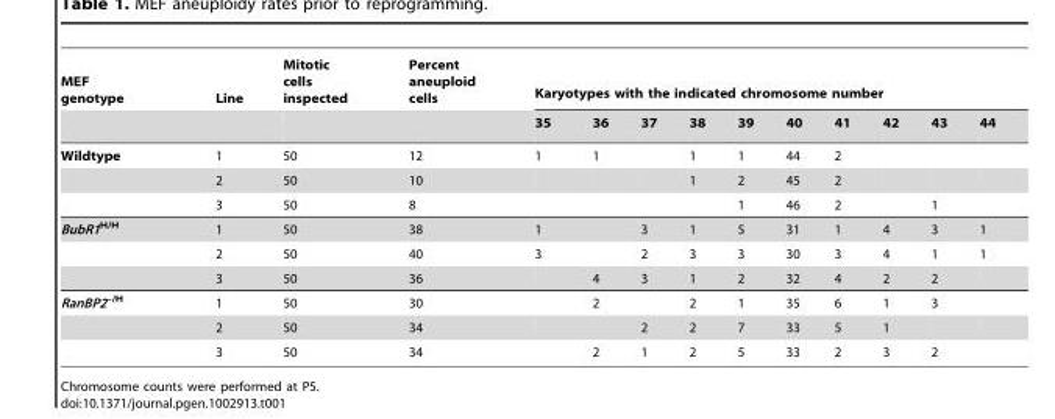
<table><thead><tr><td rowspan="2">MEF genotype</td><td rowspan="2">Line</td><td rowspan="2">Mitotic cells inspected</td><td rowspan="2">Percent aneuploid cells</td><td colspan="10">Karyotypes with the indicated chromosome number</td></tr><tr><td>35</td><td>36</td><td>37</td><td>38</td><td>39</td><td>40</td><td>41</td><td>42</td><td>43</td><td>44</td></tr></thead><tbody><tr><td rowspan="3">Wildtype</td><td>1</td><td>50</td><td>12</td><td>1</td><td>1</td><td></td><td>1</td><td>1</td><td>44</td><td>2</td><td></td><td></td><td></td></tr><tr><td>2</td><td>50</td><td>10</td><td></td><td></td><td></td><td>1</td><td>2</td><td>45</td><td>2</td><td></td><td></td><td></td></tr><tr><td>3</td><td>50</td><td>8</td><td></td><td></td><td></td><td></td><td>1</td><td>46</td><td>2</td><td></td><td>1</td><td></td></tr><tr><td rowspan="3">BubR1<sup>H/H</sup></td><td>1</td><td>50</td><td>38</td><td>1</td><td></td><td>3</td><td>1</td><td>5</td><td>31</td><td>1</td><td>4</td><td>3</td><td>1</td></tr><tr><td>2</td><td>50</td><td>40</td><td>3</td><td></td><td>2</td><td>3</td><td>3</td><td>30</td><td>3</td><td>4</td><td>1</td><td>1</td></tr><tr><td>3</td><td>50</td><td>36</td><td></td><td>4</td><td>3</td><td>1</td><td>2</td><td>32</td><td>4</td><td>2</td><td>2</td><td></td></tr><tr><td rowspan="3">RanBP2<sup>–/H</sup></td><td>1</td><td>50</td><td>30</td><td></td><td>2</td><td></td><td>2</td><td>1</td><td>35</td><td>6</td><td>1</td><td>3</td><td></td></tr><tr><td>2</td><td>50</td><td>34</td><td></td><td></td><td>2</td><td>2</td><td>7</td><td>33</td><td>5</td><td>1</td><td></td><td></td></tr><tr><td>3</td><td>50</td><td>34</td><td></td><td>2</td><td>1</td><td>2</td><td>5</td><td>33</td><td>2</td><td>3</td><td>2</td><td></td></tr></tbody></table>